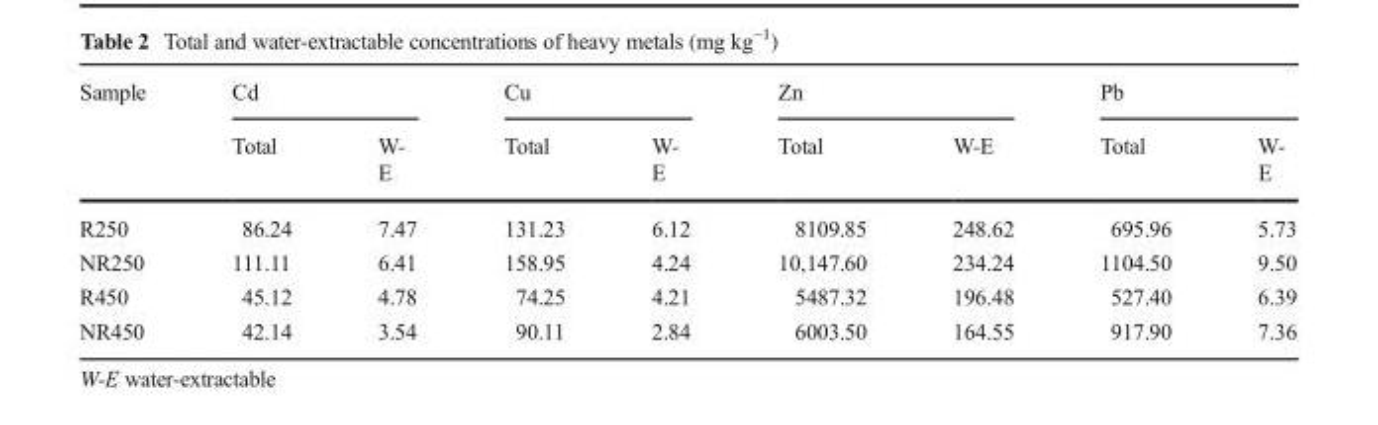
<table><thead><tr><td rowspan="2">Sample</td><td colspan="2">Cd</td><td colspan="2">Cu</td><td colspan="2">Zn</td><td colspan="2">Pb</td></tr><tr><td>Total</td><td>W- E</td><td>Total</td><td>W- E</td><td>Total</td><td>W-E</td><td>Total</td><td>W- E</td></tr></thead><tbody><tr><td>R250</td><td>86.24</td><td>7.47</td><td>131.23</td><td>6.12</td><td>8109.85</td><td>248.62</td><td>695.96</td><td>5.73</td></tr><tr><td>NR250</td><td>111.11</td><td>6.41</td><td>158.95</td><td>4.24</td><td>10,147.60</td><td>234.24</td><td>1104.50</td><td>9.50</td></tr><tr><td>R450</td><td>45.12</td><td>4.78</td><td>74.25</td><td>4.21</td><td>5487.32</td><td>196.48</td><td>527.40</td><td>6.39</td></tr><tr><td>NR450</td><td>42.14</td><td>3.54</td><td>90.11</td><td>2.84</td><td>6003.50</td><td>164.55</td><td>917.90</td><td>7.36</td></tr></tbody></table>